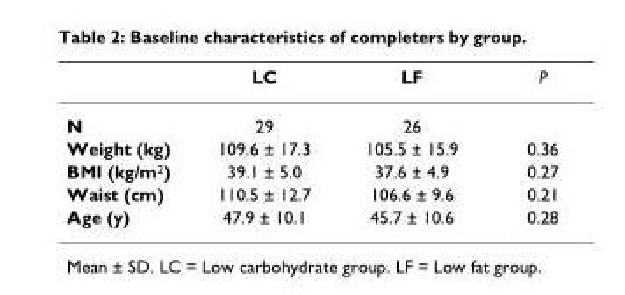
<table><thead><tr><td></td><td>LC</td><td>LF</td><td>P</td></tr></thead><tbody><tr><td>N</td><td>29</td><td>26</td><td></td></tr><tr><td>Weight (kg)</td><td>109.6 ± 17.3</td><td>105.5 ± 15.9</td><td>0.36</td></tr><tr><td>BMI (kg/m<sup>2</sup>)</td><td>39.1 ± 5.0</td><td>37.6 ± 4.9</td><td>0.27</td></tr><tr><td>Waist (cm)</td><td>110.5 ± 12.7</td><td>106.6 ± 9.6</td><td>0.21</td></tr><tr><td>Age (y)</td><td>47.9 ± 10.1</td><td>45.7 ± 10.6</td><td>0.28</td></tr></tbody></table>